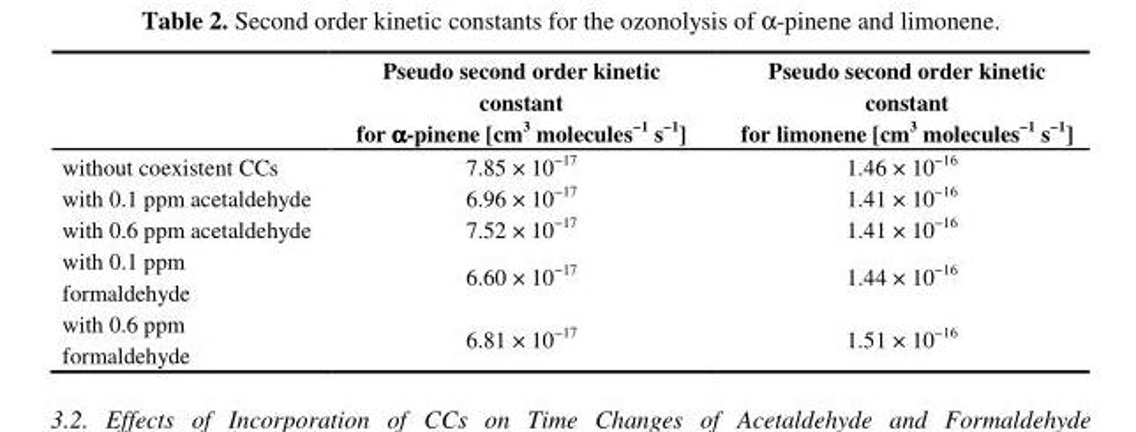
<table><thead><tr><td></td><td>Pseudo second order kinetic constant for αααα-pinene [cm3 molecules−1 s−1]</td><td>Pseudo second order kinetic constant for limonene [cm<sup>3</sup> molecules<sup>−1</sup> s<sup>−1</sup>]</td></tr></thead><tbody><tr><td>without coexistent CCs</td><td>7.85 × 10<sup>−17</sup></td><td>1.46 × 10<sup>−16</sup></td></tr><tr><td>with 0.1 ppm acetaldehyde</td><td>6.96 × 10<sup>−17</sup></td><td>1.41 × 10<sup>−16</sup></td></tr><tr><td>with 0.6 ppm acetaldehyde</td><td>7.52 × 10<sup>−17</sup></td><td>1.41 × 10<sup>−16</sup></td></tr><tr><td>with 0.1 ppm formaldehyde</td><td>6.60 × 10<sup>−17</sup></td><td>1.44 × 10<sup>−16</sup></td></tr><tr><td>with 0.6 ppm formaldehyde</td><td>6.81 × 10<sup>−17</sup></td><td>1.51 × 10<sup>−16</sup></td></tr></tbody></table>